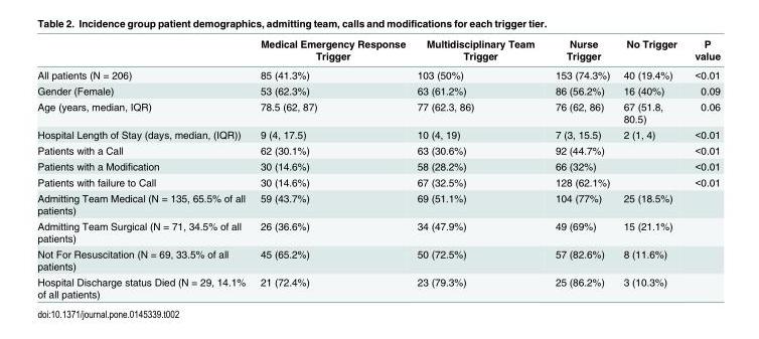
<table><thead><tr><td></td><td>Medical Emergency Response Trigger</td><td>Multidisciplinary Team Trigger</td><td>Nurse Trigger</td><td>No Trigger</td><td>P value</td></tr></thead><tbody><tr><td>All patients (N = 206)</td><td>85 (41.3%)</td><td>103 (50%)</td><td>153 (74.3%)</td><td>40 (19.4%)</td><td>&lt;0.01</td></tr><tr><td>Gender (Female)</td><td>53 (62.3%)</td><td>63 (61.2%)</td><td>86 (56.2%)</td><td>16 (40%)</td><td>0.09</td></tr><tr><td>Age (years, median, IQR)</td><td>78.5 (62, 87)</td><td>77 (62.3, 86)</td><td>76 (62, 86)</td><td>67 (51.8, 80.5)</td><td>0.06</td></tr><tr><td>Hospital Length of Stay (days, median, (IQR))</td><td>9 (4, 17.5)</td><td>10 (4, 19)</td><td>7 (3, 15.5)</td><td>2 (1, 4)</td><td>&lt;0.01</td></tr><tr><td>Patients with a Call</td><td>62 (30.1%)</td><td>63 (30.6%)</td><td>92 (44.7%)</td><td></td><td>&lt;0.01</td></tr><tr><td>Patients with a Modification</td><td>30 (14.6%)</td><td>58 (28.2%)</td><td>66 (32%)</td><td></td><td>&lt;0.01</td></tr><tr><td>Patients with failure to Call</td><td>30 (14.6%)</td><td>67 (32.5%)</td><td>128 (62.1%)</td><td></td><td>&lt;0.01</td></tr><tr><td>Admitting Team Medical (N = 135, 65.5% of all patients)</td><td>59 (43.7%)</td><td>69 (51.1%)</td><td>104 (77%)</td><td>25 (18.5%)</td><td></td></tr><tr><td>Admitting Team Surgical (N = 71, 34.5% of all patients)</td><td>26 (36.6%)</td><td>34 (47.9%)</td><td>49 (69%)</td><td>15 (21.1%)</td><td></td></tr><tr><td>Not For Resuscitation (N = 69, 33.5% of all patients)</td><td>45 (65.2%)</td><td>50 (72.5%)</td><td>57 (82.6%)</td><td>8 (11.6%)</td><td></td></tr><tr><td>Hospital Discharge status Died (N = 29, 14.1% of all patients)</td><td>21 (72.4%)</td><td>23 (79.3%)</td><td>25 (86.2%)</td><td>3 (10.3%)</td><td></td></tr></tbody></table>